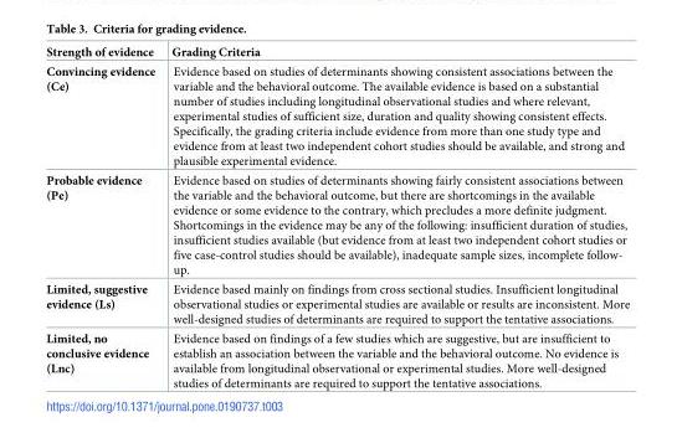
<table><thead><tr><td>Strength of evidence</td><td>Grading Criteria</td></tr></thead><tbody><tr><td>Convincing evidence (Ce)</td><td>Evidence based on studies of determinants showing consistent associations between the variable and the behavioral outcome. The available evidence is based on a substantial number of studies including longitudinal observational studies and where relevant, experimental studies of sufficient size, duration and quality showing consistent effects. Specifically, the grading criteria include evidence from more than one study type and evidence from at least two independent cohort studies should be available, and strong and plausible experimental evidence.</td></tr><tr><td>Probable evidence (Pe)</td><td>Evidence based on studies of determinants showing fairly consistent associations between the variable and the behavioral outcome, but there are shortcomings in the available evidence or some evidence to the contrary, which precludes a more definite judgment. Shortcomings in the evidence may be any of the following: insufficient duration of studies, insufficient studies available (but evidence from at least two independent cohort studies or five case-control studies should be available), inadequate sample sizes, incomplete follow- up.</td></tr><tr><td>Limited, suggestive evidence (Ls)</td><td>Evidence based mainly on findings from cross sectional studies. Insufficient longitudinal observational studies or experimental studies are available or results are inconsistent. More well-designed studies of determinants are required to support the tentative associations.</td></tr><tr><td>Limited, no conclusive evidence (Lnc)</td><td>Evidence based on findings of a few studies which are suggestive, but are insufficient to establish an association between the variable and the behavioral outcome. No evidence is available from longitudinal observational or experimental studies. More well-designed studies of determinants are required to support the tentative associations.</td></tr></tbody></table>